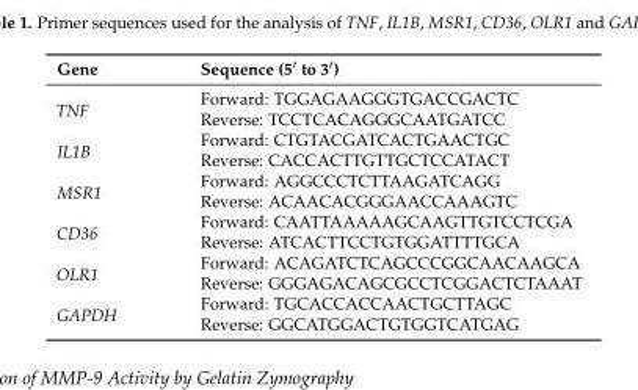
<table><thead><tr><td>Gene</td><td>Sequence (5′ to 3′)</td></tr></thead><tbody><tr><td rowspan="2">TNF</td><td>Forward: TGGAGAAGGGTGACCGACTC</td></tr><tr><td>Reverse: TCCTCACAGGGCAATGATCC</td></tr><tr><td rowspan="2">IL1B</td><td>Forward: CTGTACGATCACTGAACTGC</td></tr><tr><td>Reverse: CACCACTTGTTGCTCCATACT</td></tr><tr><td rowspan="2">MSR1</td><td>Forward: AGGCCCTCTTAAGATCAGG</td></tr><tr><td>Reverse: ACAACACGGGAACCAAAGTC</td></tr><tr><td rowspan="2">CD36</td><td>Forward: CAATTAAAAAGCAAGTTGTCCTCGA</td></tr><tr><td>Reverse: ATCACTTCCTGTGGATTTTGCA</td></tr><tr><td rowspan="2">OLR1</td><td>Forward: ACAGATCTCAGCCCGGCAACAAGCA</td></tr><tr><td>Reverse: GGGAGACAGCGCCTCGGACTCTAAAT</td></tr><tr><td rowspan="2">GAPDH</td><td>Forward: TGCACCACCAACTGCTTAGC</td></tr><tr><td>Reverse: GGCATGGACTGTGGTCATGAG</td></tr></tbody></table>